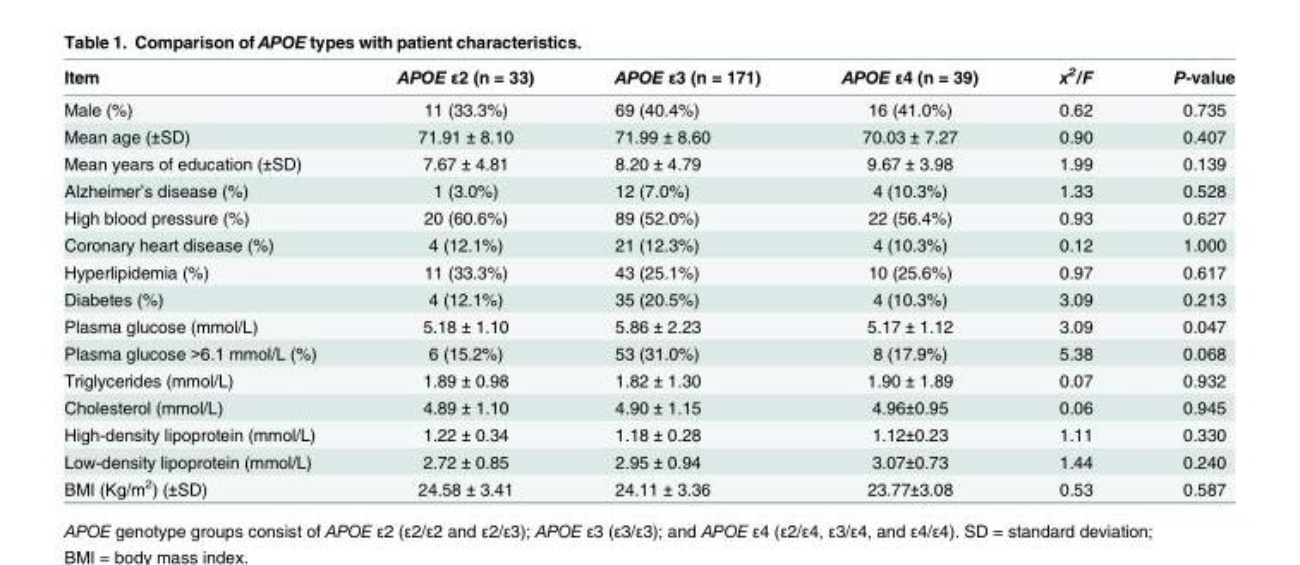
<table><thead><tr><td>Item</td><td>APOE ε2 (n = 33)</td><td>APOE ε3 (n = 171)</td><td>APOE ε4 (n = 39)</td><td>x<sup>2</sup>/F</td><td>P-value</td></tr></thead><tbody><tr><td>Male (%)</td><td>11 (33.3%)</td><td>69 (40.4%)</td><td>16 (41.0%)</td><td>0.62</td><td>0.735</td></tr><tr><td>Mean age (±SD)</td><td>71.91 ± 8.10</td><td>71.99 ± 8.60</td><td>70.03 ± 7.27</td><td>0.90</td><td>0.407</td></tr><tr><td>Mean years of education (±SD)</td><td>7.67 ± 4.81</td><td>8.20 ± 4.79</td><td>9.67 ± 3.98</td><td>1.99</td><td>0.139</td></tr><tr><td>Alzheimer’s disease (%)</td><td>1 (3.0%)</td><td>12 (7.0%)</td><td>4 (10.3%)</td><td>1.33</td><td>0.528</td></tr><tr><td>High blood pressure (%)</td><td>20 (60.6%)</td><td>89 (52.0%)</td><td>22 (56.4%)</td><td>0.93</td><td>0.627</td></tr><tr><td>Coronary heart disease (%)</td><td>4 (12.1%)</td><td>21 (12.3%)</td><td>4 (10.3%)</td><td>0.12</td><td>1.000</td></tr><tr><td>Hyperlipidemia (%)</td><td>11 (33.3%)</td><td>43 (25.1%)</td><td>10 (25.6%)</td><td>0.97</td><td>0.617</td></tr><tr><td>Diabetes (%)</td><td>4 (12.1%)</td><td>35 (20.5%)</td><td>4 (10.3%)</td><td>3.09</td><td>0.213</td></tr><tr><td>Plasma glucose (mmol/L)</td><td>5.18 ± 1.10</td><td>5.86 ± 2.23</td><td>5.17 ± 1.12</td><td>3.09</td><td>0.047</td></tr><tr><td>Plasma glucose &gt;6.1 mmol/L (%)</td><td>6 (15.2%)</td><td>53 (31.0%)</td><td>8 (17.9%)</td><td>5.38</td><td>0.068</td></tr><tr><td>Triglycerides (mmol/L)</td><td>1.89 ± 0.98</td><td>1.82 ± 1.30</td><td>1.90 ± 1.89</td><td>0.07</td><td>0.932</td></tr><tr><td>Cholesterol (mmol/L)</td><td>4.89 ± 1.10</td><td>4.90 ± 1.15</td><td>4.96±0.95</td><td>0.06</td><td>0.945</td></tr><tr><td>High-density lipoprotein (mmol/L)</td><td>1.22 ± 0.34</td><td>1.18 ± 0.28</td><td>1.12±0.23</td><td>1.11</td><td>0.330</td></tr><tr><td>Low-density lipoprotein (mmol/L)</td><td>2.72 ± 0.85</td><td>2.95 ± 0.94</td><td>3.07±0.73</td><td>1.44</td><td>0.240</td></tr><tr><td>BMI (Kg/m<sup>2</sup>) (±SD)</td><td>24.58 ± 3.41</td><td>24.11 ± 3.36</td><td>23.77±3.08</td><td>0.53</td><td>0.587</td></tr></tbody></table>